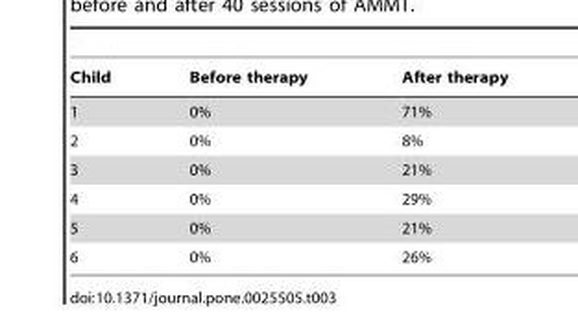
<table><thead><tr><td>Child</td><td>Before therapy</td><td>After therapy</td></tr></thead><tbody><tr><td>1</td><td>0%</td><td>71%</td></tr><tr><td>2</td><td>0%</td><td>8%</td></tr><tr><td>3</td><td>0%</td><td>21%</td></tr><tr><td>4</td><td>0%</td><td>29%</td></tr><tr><td>5</td><td>0%</td><td>21%</td></tr><tr><td>6</td><td>0%</td><td>26%</td></tr></tbody></table>